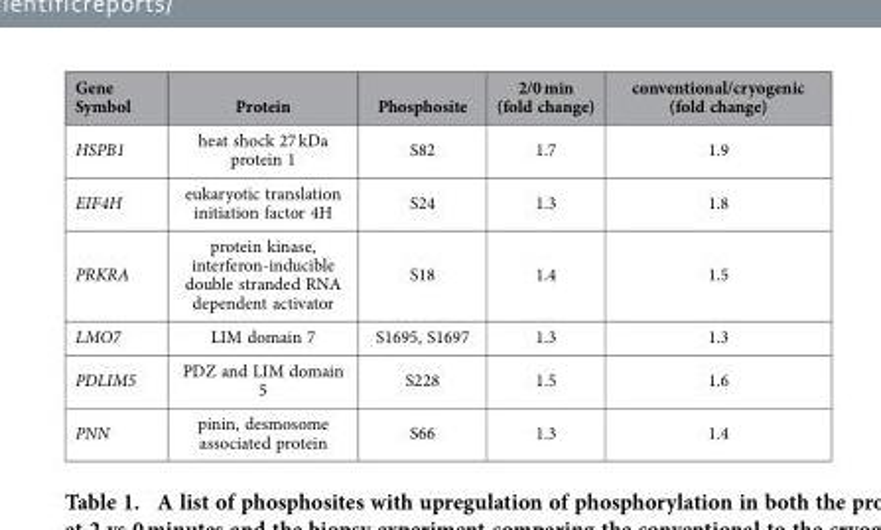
<table><thead><tr><td>Gene Symbol</td><td>Protein</td><td>Phosphosite</td><td>2/0 min (fold change)</td><td>conventional/cryogenic (fold change)</td></tr></thead><tbody><tr><td>HSPB1</td><td>heat shock 27 kDa protein 1</td><td>S82</td><td>1.7</td><td>1.9</td></tr><tr><td>EIF4H</td><td>eukaryotic translation initiation factor 4H</td><td>S24</td><td>1.3</td><td>1.8</td></tr><tr><td>PRKRA</td><td>protein kinase, interferon-inducible double stranded RNA dependent activator</td><td>S18</td><td>1.4</td><td>1.5</td></tr><tr><td>LMO7</td><td>LIM domain 7</td><td>S1695, S1697</td><td>1.3</td><td>1.3</td></tr><tr><td>PDLIM5</td><td>PDZ and LIM domain 5</td><td>S228</td><td>1.5</td><td>1.6</td></tr><tr><td>PNN</td><td>pinin, desmosome associated protein</td><td>S66</td><td>1.3</td><td>1.4</td></tr></tbody></table>